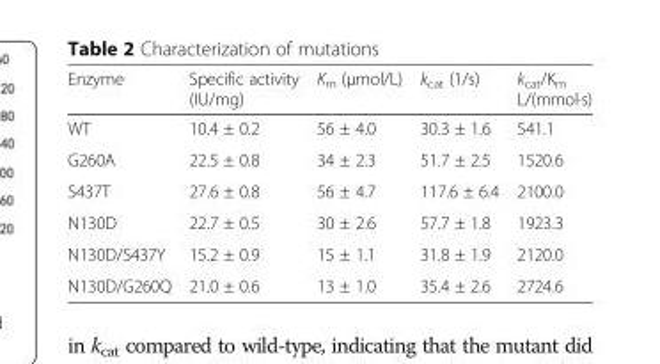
<table><thead><tr><td>Enzyme</td><td>Specific activity (IU/mg)</td><td>K<sub>m</sub> (μmol/L)</td><td>k<sub>cat</sub> (1/s)</td><td>k<sub>cat</sub>/K<sub>m</sub> L/(mmol·s)</td></tr></thead><tbody><tr><td>WT</td><td>10.4 ± 0.2</td><td>56 ± 4.0</td><td>30.3 ± 1.6</td><td>541.1</td></tr><tr><td>G260A</td><td>22.5 ± 0.8</td><td>34 ± 2.3</td><td>51.7 ± 2.5</td><td>1520.6</td></tr><tr><td>S437T</td><td>27.6 ± 0.8</td><td>56 ± 4.7</td><td>117.6 ± 6.4</td><td>2100.0</td></tr><tr><td>N130D</td><td>22.7 ± 0.5</td><td>30 ± 2.6</td><td>57.7 ± 1.8</td><td>1923.3</td></tr><tr><td>N130D/S437Y</td><td>15.2 ± 0.9</td><td>15 ± 1.1</td><td>31.8 ± 1.9</td><td>2120.0</td></tr><tr><td>N130D/G260Q</td><td>21.0 ± 0.6</td><td>13 ± 1.0</td><td>35.4 ± 2.6</td><td>2724.6</td></tr></tbody></table>